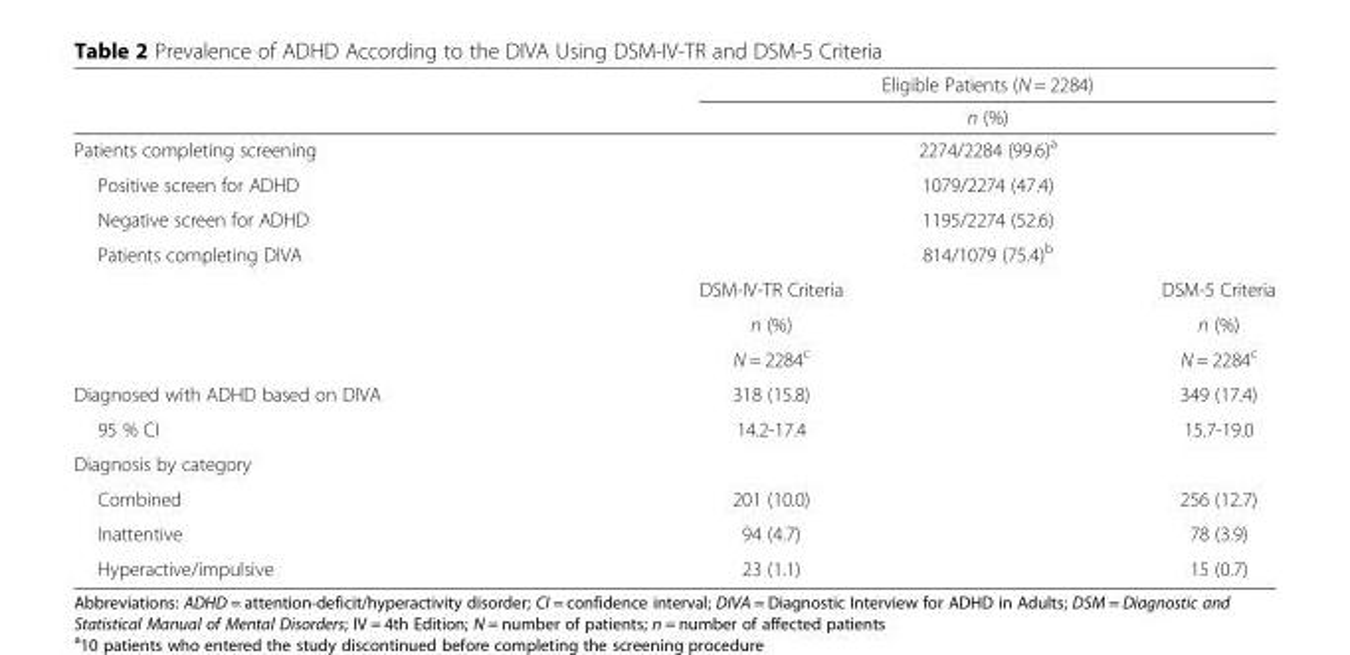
<table><thead><tr><td rowspan="2"></td><td rowspan="2" colspan="2">Eligible Patients (N = 2284) n (%)</td></tr><tr></tr></thead><tbody><tr><td>Patients completing screening</td><td colspan="2">2274/2284 (99.6)<sup>a</sup></td></tr><tr><td>Positive screen for ADHD</td><td colspan="2">1079/2274 (47.4)</td></tr><tr><td>Negative screen for ADHD</td><td colspan="2">1195/2274 (52.6)</td></tr><tr><td rowspan="4">Patients completing DIVA</td><td colspan="2">814/1079 (75.4)<sup>b</sup></td></tr><tr><td>DSM-IV-TR Criteria</td><td>DSM-5 Criteria</td></tr><tr><td>n (%)</td><td>n (%)</td></tr><tr><td>N = 2284<sup>c</sup></td><td>N = 2284<sup>c</sup></td></tr><tr><td>Diagnosed with ADHD based on DIVA</td><td>318 (15.8)</td><td>349 (17.4)</td></tr><tr><td>95 % CI</td><td>14.2-17.4</td><td>15.7-19.0</td></tr><tr><td colspan="3">Diagnosis by category</td></tr><tr><td>Combined</td><td>201 (10.0)</td><td>256 (12.7)</td></tr><tr><td>Inattentive</td><td>94 (4.7)</td><td>78 (3.9)</td></tr><tr><td>Hyperactive/impulsive</td><td>23 (1.1)</td><td>15 (0.7)</td></tr></tbody></table>